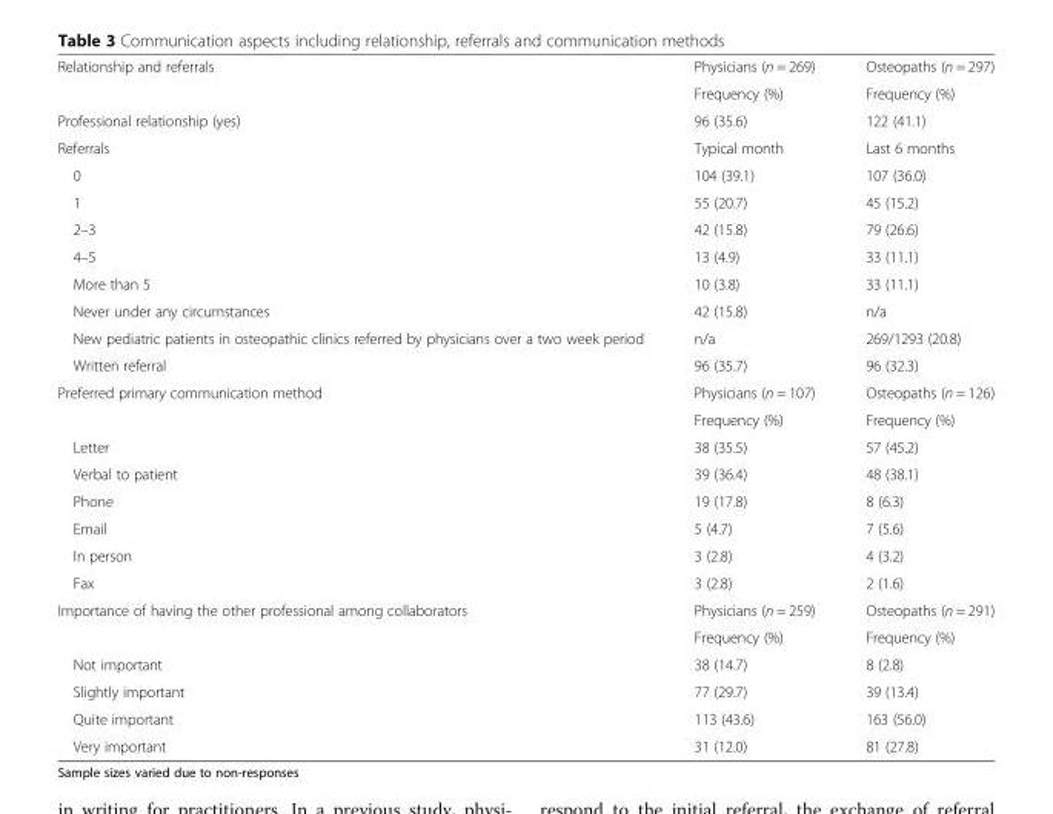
<table><tbody><tr><td rowspan="2">Relationship and referrals</td><td>Physicians (n = 269)</td><td>Osteopaths (n = 297)</td></tr><tr><td>Frequency (%)</td><td>Frequency (%)</td></tr><tr><td>Professional relationship (yes)</td><td>96 (35.6)</td><td>122 (41.1)</td></tr><tr><td>Referrals</td><td>Typical month</td><td>Last 6 months</td></tr><tr><td>0</td><td>104 (39.1)</td><td>107 (36.0)</td></tr><tr><td>1</td><td>55 (20.7)</td><td>45 (15.2)</td></tr><tr><td>2–3</td><td>42 (15.8)</td><td>79 (26.6)</td></tr><tr><td>4–5</td><td>13 (4.9)</td><td>33 (11.1)</td></tr><tr><td>More than 5</td><td>10 (3.8)</td><td>33 (11.1)</td></tr><tr><td>Never under any circumstances</td><td>42 (15.8)</td><td>n/a</td></tr><tr><td>New pediatric patients in osteopathic clinics referred by physicians over a two week period</td><td>n/a</td><td>269/1293 (20.8)</td></tr><tr><td>Written referral</td><td>96 (35.7)</td><td>96 (32.3)</td></tr><tr><td rowspan="2">Preferred primary communication method</td><td>Physicians (n = 107)</td><td>Osteopaths (n = 126)</td></tr><tr><td>Frequency (%)</td><td>Frequency (%)</td></tr><tr><td>Letter</td><td>38 (35.5)</td><td>57 (45.2)</td></tr><tr><td>Verbal to patient</td><td>39 (36.4)</td><td>48 (38.1)</td></tr><tr><td>Phone</td><td>19 (17.8)</td><td>8 (6.3)</td></tr><tr><td>Email</td><td>5 (4.7)</td><td>7 (5.6)</td></tr><tr><td>In person</td><td>3 (2.8)</td><td>4 (3.2)</td></tr><tr><td>Fax</td><td>3 (2.8)</td><td>2 (1.6)</td></tr><tr><td rowspan="2">Importance of having the other professional among collaborators</td><td>Physicians (n = 259)</td><td>Osteopaths (n = 291)</td></tr><tr><td>Frequency (%)</td><td>Frequency (%)</td></tr><tr><td>Not important</td><td>38 (14.7)</td><td>8 (2.8)</td></tr><tr><td>Slightly important</td><td>77 (29.7)</td><td>39 (13.4)</td></tr><tr><td>Quite important</td><td>113 (43.6)</td><td>163 (56.0)</td></tr><tr><td>Very important</td><td>31 (12.0)</td><td>81 (27.8)</td></tr></tbody></table>